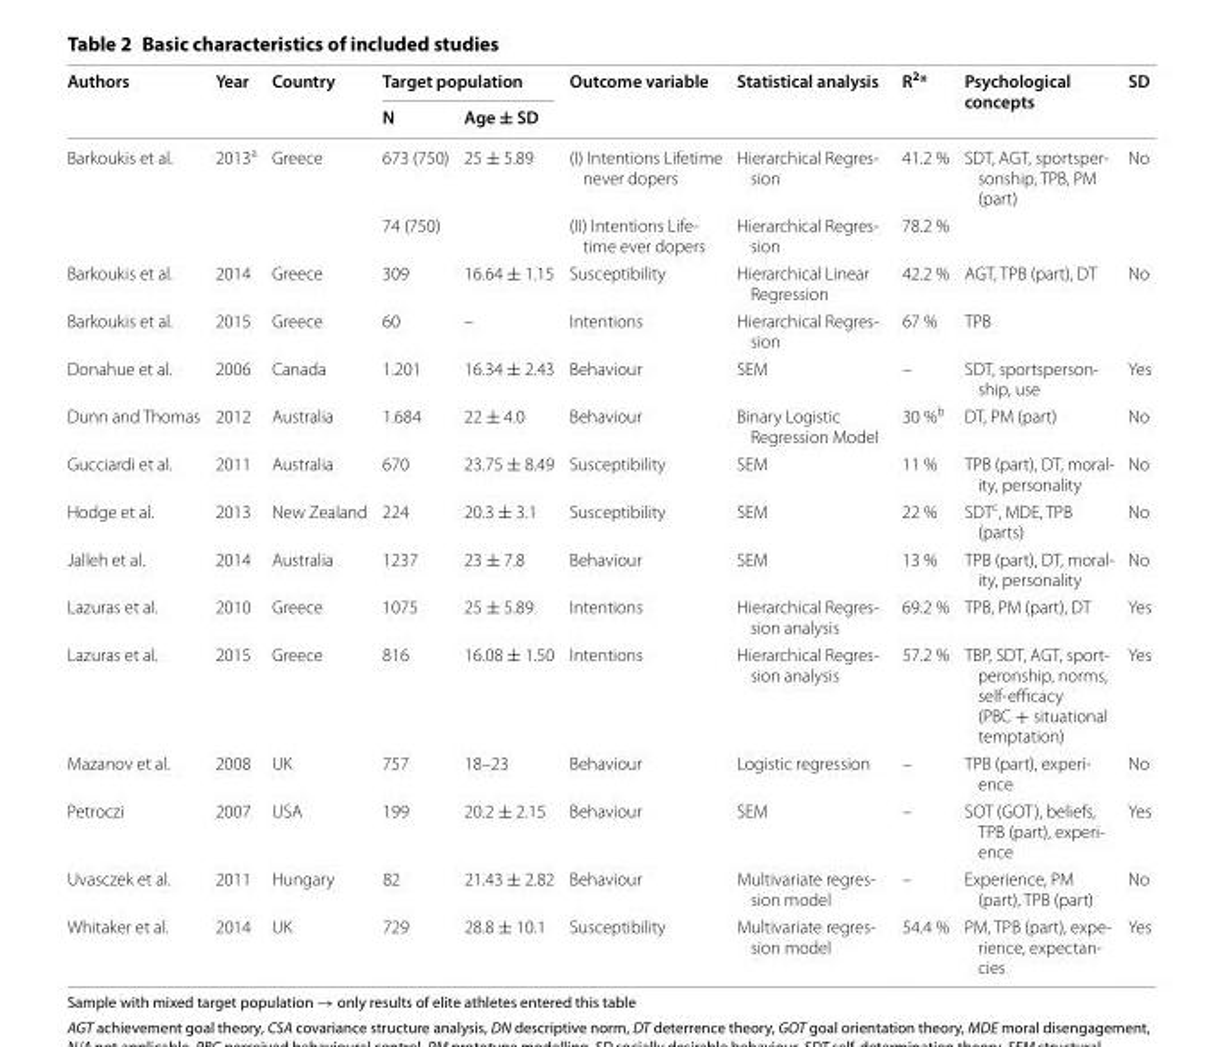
<table><thead><tr><td rowspan="2">Authors</td><td rowspan="2">Year</td><td rowspan="2">Country</td><td colspan="2">Target population</td><td rowspan="2">Outcome variable</td><td rowspan="2">Statistical analysis</td><td rowspan="2">R<sup>2</sup>*</td><td rowspan="2">Psychological concepts</td><td rowspan="2">SD</td></tr><tr><td>N</td><td>Age ± SD</td></tr></thead><tbody><tr><td rowspan="2">Barkoukis et al.</td><td>2013<sup>a</sup></td><td>Greece</td><td>673 (750)</td><td>25 ± 5.89</td><td>(I) Intentions Lifetime never dopers</td><td>Hierarchical Regres- sion</td><td>41.2 %</td><td>SDT, AGT, sportsper- sonship, TPB, PM (part)</td><td>No</td></tr><tr><td></td><td></td><td>74 (750)</td><td></td><td>(II) Intentions Life- time ever dopers</td><td>Hierarchical Regres- sion</td><td>78.2 %</td><td></td><td></td></tr><tr><td>Barkoukis et al.</td><td>2014</td><td>Greece</td><td>309</td><td>16.64 ± 1.15</td><td>Susceptibility</td><td>Hierarchical Linear Regression</td><td>42.2 %</td><td>AGT, TPB (part), DT</td><td>No</td></tr><tr><td>Barkoukis et al.</td><td>2015</td><td>Greece</td><td>60</td><td>–</td><td>Intentions</td><td>Hierarchical Regres- sion</td><td>67 %</td><td>TPB</td><td></td></tr><tr><td>Donahue et al.</td><td>2006</td><td>Canada</td><td>1.201</td><td>16.34 ± 2.43</td><td>Behaviour</td><td>SEM</td><td>–</td><td>SDT, sportsperson- ship, use</td><td>Yes</td></tr><tr><td>Dunn and Thomas</td><td>2012</td><td>Australia</td><td>1.684</td><td>22 ± 4.0</td><td>Behaviour</td><td>Binary Logistic Regression Model</td><td>30 %<sup>b</sup></td><td>DT, PM (part)</td><td>No</td></tr><tr><td>Gucciardi et al.</td><td>2011</td><td>Australia</td><td>670</td><td>23.75 ± 8.49</td><td>Susceptibility</td><td>SEM</td><td>11 %</td><td>TPB (part), DT, moral- ity, personality</td><td>No</td></tr><tr><td>Hodge et al.</td><td>2013</td><td>New Zealand</td><td>224</td><td>20.3 ± 3.1</td><td>Susceptibility</td><td>SEM</td><td>22 %</td><td>SDT<sup>c</sup>, MDE, TPB (parts)</td><td>No</td></tr><tr><td>Jalleh et al.</td><td>2014</td><td>Australia</td><td>1237</td><td>23 ± 7.8</td><td>Behaviour</td><td>SEM</td><td>13 %</td><td>TPB (part), DT, moral- ity, personality</td><td>No</td></tr><tr><td>Lazuras et al.</td><td>2010</td><td>Greece</td><td>1075</td><td>25 ± 5.89</td><td>Intentions</td><td>Hierarchical Regres- sion analysis</td><td>69.2 %</td><td>TPB, PM (part), DT</td><td>Yes</td></tr><tr><td>Lazuras et al.</td><td>2015</td><td>Greece</td><td>816</td><td>16.08 ± 1.50</td><td>Intentions</td><td>Hierarchical Regres- sion analysis</td><td>57.2 %</td><td>TBP, SDT, AGT, sport- peronship, norms, self-efficacy (PBC + situational temptation)</td><td>Yes</td></tr><tr><td>Mazanov et al.</td><td>2008</td><td>UK</td><td>757</td><td>18–23</td><td>Behaviour</td><td>Logistic regression</td><td>–</td><td>TPB (part), experi- ence</td><td>No</td></tr><tr><td>Petroczi</td><td>2007</td><td>USA</td><td>199</td><td>20.2 ± 2.15</td><td>Behaviour</td><td>SEM</td><td>–</td><td>SOT (GOT), beliefs, TPB (part), experi- ence</td><td>Yes</td></tr><tr><td>Uvasczek et al.</td><td>2011</td><td>Hungary</td><td>82</td><td>21.43 ± 2.82</td><td>Behaviour</td><td>Multivariate regres- sion model</td><td>–</td><td>Experience, PM (part), TPB (part)</td><td>No</td></tr><tr><td>Whitaker et al.</td><td>2014</td><td>UK</td><td>729</td><td>28.8 ± 10.1</td><td>Susceptibility</td><td>Multivariate regres- sion model</td><td>54.4 %</td><td>PM, TPB (part), expe- rience, expectan- cies</td><td>Yes</td></tr></tbody></table>